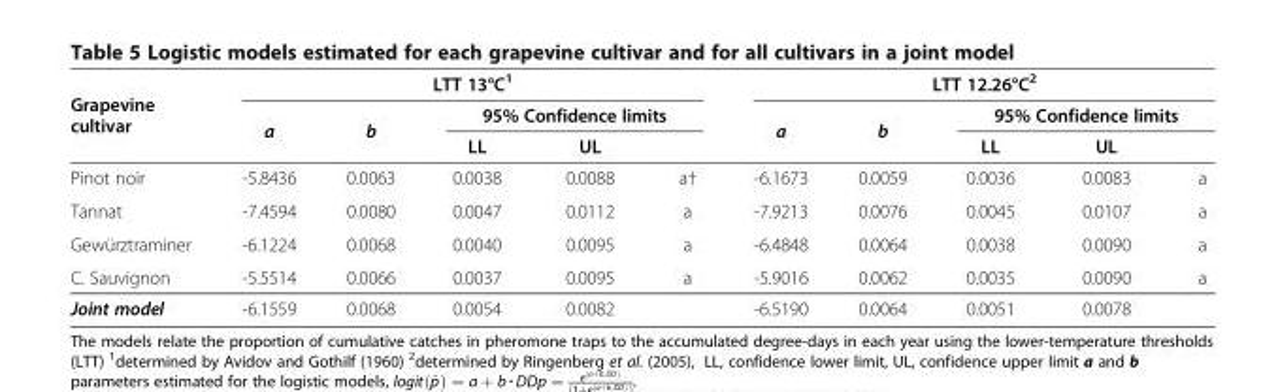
<table><thead><tr><td rowspan="3">Grapevine cultivar</td><td colspan="5">LTT 13°C<sup>1</sup></td><td colspan="5">LTT 12.26°C<sup>2</sup></td></tr><tr><td rowspan="2">a</td><td rowspan="2">b</td><td colspan="3">95% Confidence limits</td><td rowspan="2">a</td><td rowspan="2">b</td><td colspan="3">95% Confidence limits</td></tr><tr><td>LL</td><td>UL</td><td></td><td>LL</td><td>UL</td><td></td></tr></thead><tbody><tr><td>Pinot noir</td><td>-5.8436</td><td>0.0063</td><td>0.0038</td><td>0.0088</td><td>a†</td><td>-6.1673</td><td>0.0059</td><td>0.0036</td><td>0.0083</td><td>a</td></tr><tr><td>Tannat</td><td>-7.4594</td><td>0.0080</td><td>0.0047</td><td>0.0112</td><td>a</td><td>-7.9213</td><td>0.0076</td><td>0.0045</td><td>0.0107</td><td>a</td></tr><tr><td>Gewürztraminer</td><td>-6.1224</td><td>0.0068</td><td>0.0040</td><td>0.0095</td><td>a</td><td>-6.4848</td><td>0.0064</td><td>0.0038</td><td>0.0090</td><td>a</td></tr><tr><td>C. Sauvignon</td><td>-5.5514</td><td>0.0066</td><td>0.0037</td><td>0.0095</td><td>a</td><td>-5.9016</td><td>0.0062</td><td>0.0035</td><td>0.0090</td><td>a</td></tr><tr><td>Joint model</td><td>-6.1559</td><td>0.0068</td><td>0.0054</td><td>0.0082</td><td></td><td>-6.5190</td><td>0.0064</td><td>0.0051</td><td>0.0078</td><td></td></tr></tbody></table>